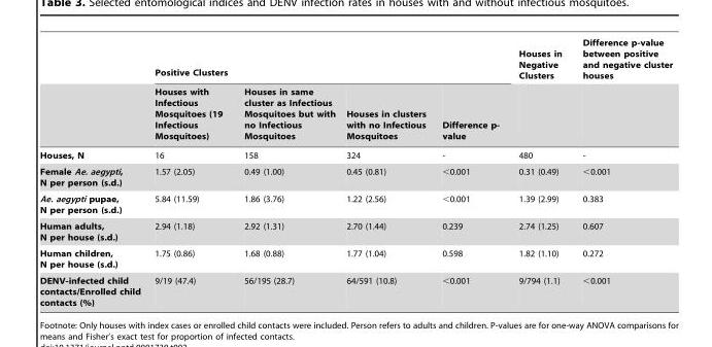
<table><thead><tr><td rowspan="2"></td><td colspan="4">Positive Clusters</td><td rowspan="2">Houses in Negative Clusters</td><td rowspan="2">Difference p-value between positive and negative cluster houses</td></tr><tr><td>Houses with Infectious Mosquitoes (19 Infectious Mosquitoes)</td><td>Houses in same cluster as Infectious Mosquitoes but with no Infectious Mosquitoes</td><td>Houses in clusters with no Infectious Mosquitoes</td><td>Difference p- value</td></tr></thead><tbody><tr><td>Houses, N</td><td>16</td><td>158</td><td>324</td><td>-</td><td>480</td><td>-</td></tr><tr><td>Female Ae. aegypti, N per person (s.d.)</td><td>1.57 (2.05)</td><td>0.49 (1.00)</td><td>0.45 (0.81)</td><td>&lt;0.001</td><td>0.31 (0.49)</td><td>&lt;0.001</td></tr><tr><td>Ae. aegypti pupae, N per person (s.d.)</td><td>5.84 (11.59)</td><td>1.86 (3.76)</td><td>1.22 (2.56)</td><td>&lt;0.001</td><td>1.39 (2.99)</td><td>0.383</td></tr><tr><td>Human adults, N per house (s.d.)</td><td>2.94 (1.18)</td><td>2.92 (1.31)</td><td>2.70 (1.44)</td><td>0.239</td><td>2.74 (1.25)</td><td>0.607</td></tr><tr><td>Human children, N per house (s.d.)</td><td>1.75 (0.86)</td><td>1.68 (0.88)</td><td>1.77 (1.04)</td><td>0.598</td><td>1.82 (1.10)</td><td>0.272</td></tr><tr><td>DENV-infected child contacts/Enrolled child contacts (%)</td><td>9/19 (47.4)</td><td>56/195 (28.7)</td><td>64/591 (10.8)</td><td>&lt;0.001</td><td>9/794 (1.1)</td><td>&lt;0.001</td></tr></tbody></table>